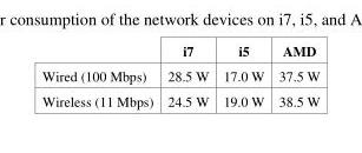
<table><thead><tr><td></td><td>i7</td><td>i5</td><td>AMD</td></tr></thead><tbody><tr><td>Wired (100 Mbps)</td><td>28.5 W</td><td>17.0 W</td><td>37.5 W</td></tr><tr><td>Wireless (11 Mbps)</td><td>24.5 W</td><td>19.0 W</td><td>38.5 W</td></tr></tbody></table>